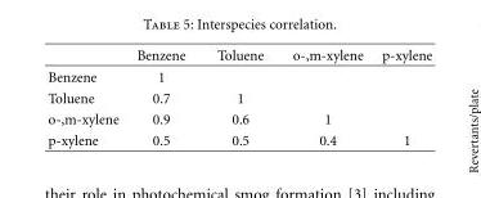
<table><thead><tr><td></td><td>Benzene</td><td>Toluene</td><td>o-,m-xylene</td><td>p-xylene</td></tr></thead><tbody><tr><td>Benzene</td><td>1</td><td></td><td></td><td></td></tr><tr><td>Toluene</td><td>0.7</td><td>1</td><td></td><td></td></tr><tr><td>o-,m-xylene</td><td>0.9</td><td>0.6</td><td>1</td><td></td></tr><tr><td>p-xylene</td><td>0.5</td><td>0.5</td><td>0.4</td><td>1</td></tr></tbody></table>